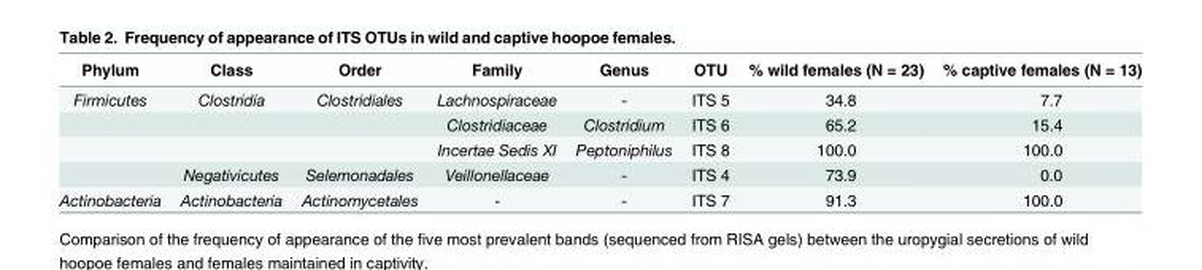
<table><thead><tr><td>Phylum</td><td>Class</td><td>Order</td><td>Family</td><td>Genus</td><td>OTU</td><td>% wild females (N = 23)</td><td>% captive females (N = 13)</td></tr></thead><tbody><tr><td rowspan="4">Firmicutes</td><td>Clostridia</td><td>Clostridiales</td><td>Lachnospiraceae</td><td>-</td><td>ITS 5</td><td>34.8</td><td>7.7</td></tr><tr><td></td><td></td><td>Clostridiaceae</td><td>Clostridium</td><td>ITS 6</td><td>65.2</td><td>15.4</td></tr><tr><td></td><td></td><td>Incertae Sedis XI</td><td>Peptoniphilus</td><td>ITS 8</td><td>100.0</td><td>100.0</td></tr><tr><td>Negativicutes</td><td>Selemonadales</td><td>Veillonellaceae</td><td>-</td><td>ITS 4</td><td>73.9</td><td>0.0</td></tr><tr><td>Actinobacteria</td><td>Actinobacteria</td><td>Actinomycetales</td><td>-</td><td>-</td><td>ITS 7</td><td>91.3</td><td>100.0</td></tr></tbody></table>